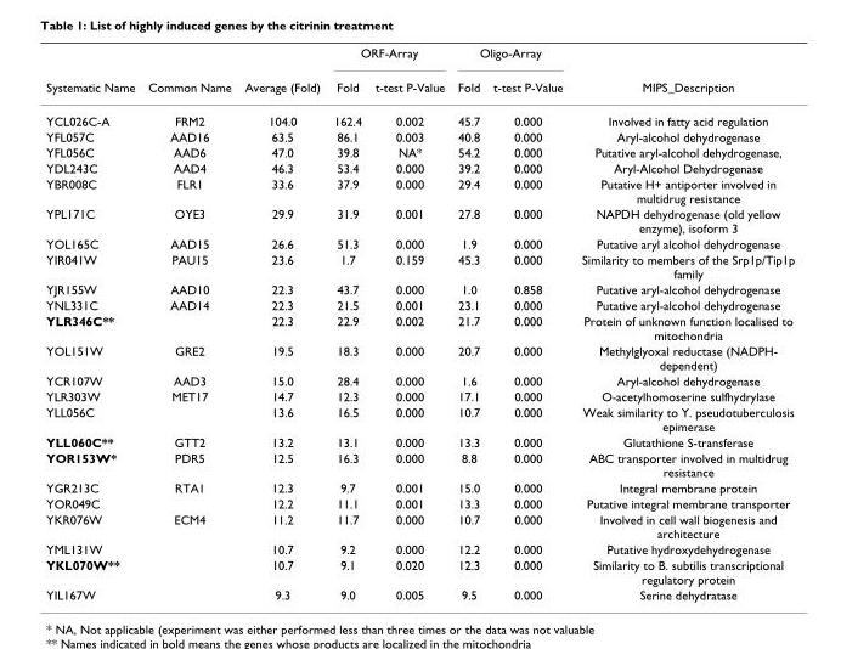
<table><thead><tr><td rowspan="2">Systematic Name</td><td rowspan="2">Common Name</td><td rowspan="2">Average (Fold)</td><td colspan="2">ORF-Array</td><td colspan="2">Oligo-Array</td><td rowspan="2">MIPS_Description</td></tr><tr><td>Fold</td><td>t-test P-Value</td><td>Fold</td><td>t-test P-Value</td></tr></thead><tbody><tr><td>YCL026C-A</td><td>FRM2</td><td>104.0</td><td>162.4</td><td>0.002</td><td>45.7</td><td>0.000</td><td>Involved in fatty acid regulation</td></tr><tr><td>YFL057C</td><td>AAD16</td><td>63.5</td><td>86.1</td><td>0.003</td><td>40.8</td><td>0.000</td><td>Aryl-alcohol dehydrogenase</td></tr><tr><td>YFL056C</td><td>AAD6</td><td>47.0</td><td>39.8</td><td>NA*</td><td>54.2</td><td>0.000</td><td>Putative aryl-alcohol dehydrogenase,</td></tr><tr><td>YDL243C</td><td>AAD4</td><td>46.3</td><td>53.4</td><td>0.000</td><td>39.2</td><td>0.000</td><td>Aryl-Alcohol Dehydrogenase</td></tr><tr><td>YBR008C</td><td>FLR1</td><td>33.6</td><td>37.9</td><td>0.000</td><td>29.4</td><td>0.000</td><td>Putative H+ antiporter involved in multidrug resistance</td></tr><tr><td>YPL171C</td><td>OYE3</td><td>29.9</td><td>31.9</td><td>0.001</td><td>27.8</td><td>0.000</td><td>NAPDH dehydrogenase (old yellow enzyme), isoform 3</td></tr><tr><td>YOL165C</td><td>AAD15</td><td>26.6</td><td>51.3</td><td>0.000</td><td>1.9</td><td>0.000</td><td>Putative aryl alcohol dehydrogenase</td></tr><tr><td>YIR041W</td><td>PAU15</td><td>23.6</td><td>1.7</td><td>0.159</td><td>45.3</td><td>0.000</td><td>Similarity to members of the Srp1p/Tip1p family</td></tr><tr><td>YJR155W</td><td>AAD10</td><td>22.3</td><td>43.7</td><td>0.000</td><td>1.0</td><td>0.858</td><td>Putative aryl-alcohol dehydrogenase</td></tr><tr><td>YNL331C</td><td>AAD14</td><td>22.3</td><td>21.5</td><td>0.001</td><td>23.1</td><td>0.000</td><td>Putative aryl-alcohol dehydrogenase</td></tr><tr><td>YLR346C**</td><td></td><td>22.3</td><td>22.9</td><td>0.002</td><td>21.7</td><td>0.000</td><td>Protein of unknown function localised to mitochondria</td></tr><tr><td>YOL151W</td><td>GRE2</td><td>19.5</td><td>18.3</td><td>0.000</td><td>20.7</td><td>0.000</td><td>Methylglyoxal reductase (NADPH- dependent)</td></tr><tr><td>YCR107W</td><td>AAD3</td><td>15.0</td><td>28.4</td><td>0.000</td><td>1.6</td><td>0.000</td><td>Aryl-alcohol dehydrogenase</td></tr><tr><td>YLR303W</td><td>MET17</td><td>14.7</td><td>12.3</td><td>0.000</td><td>17.1</td><td>0.000</td><td>O-acetylhomoserine sulfhydrylase</td></tr><tr><td>YLL056C</td><td></td><td>13.6</td><td>16.5</td><td>0.000</td><td>10.7</td><td>0.000</td><td>Weak similarity to Y. pseudotuberculosis epimerase</td></tr><tr><td>YLL060C**</td><td>GTT2</td><td>13.2</td><td>13.1</td><td>0.000</td><td>13.3</td><td>0.000</td><td>Glutathione S-transferase</td></tr><tr><td>YOR153W*</td><td>PDR5</td><td>12.5</td><td>16.3</td><td>0.000</td><td>8.8</td><td>0.000</td><td>ABC transporter involved in multidrug resistance</td></tr><tr><td>YGR213C</td><td>RTA1</td><td>12.3</td><td>9.7</td><td>0.001</td><td>15.0</td><td>0.000</td><td>Integral membrane protein</td></tr><tr><td>YOR049C</td><td></td><td>12.2</td><td>11.1</td><td>0.001</td><td>13.3</td><td>0.000</td><td>Putative integral membrane transporter</td></tr><tr><td>YKR076W</td><td>ECM4</td><td>11.2</td><td>11.7</td><td>0.000</td><td>10.7</td><td>0.000</td><td>Involved in cell wall biogenesis and architecture</td></tr><tr><td>YML131W</td><td></td><td>10.7</td><td>9.2</td><td>0.000</td><td>12.2</td><td>0.000</td><td>Putative hydroxydehydrogenase</td></tr><tr><td>YKL070W**</td><td></td><td>10.7</td><td>9.1</td><td>0.020</td><td>12.3</td><td>0.000</td><td>Similarity to B. subtilis transcriptional regulatory protein</td></tr><tr><td>YIL167W</td><td></td><td>9.3</td><td>9.0</td><td>0.005</td><td>9.5</td><td>0.000</td><td>Serine dehydratase</td></tr></tbody></table>